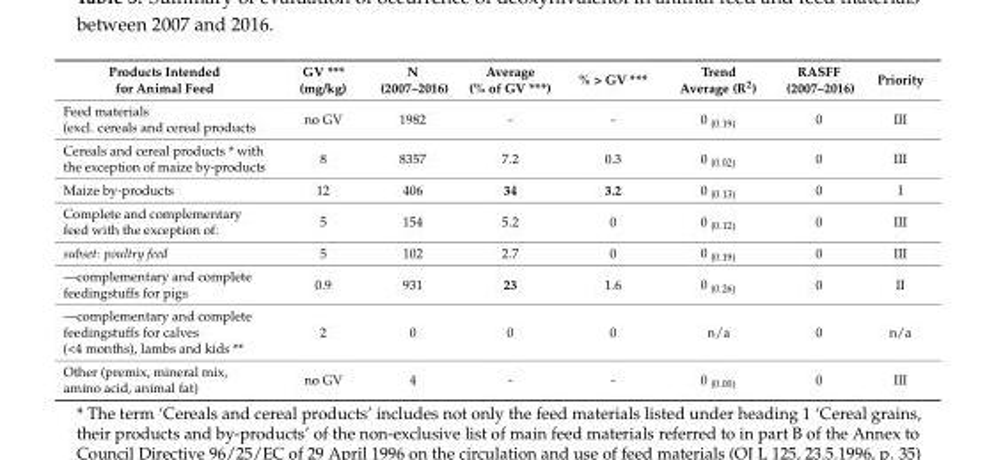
<table><thead><tr><td>Products Intended for Animal Feed</td><td>GV *** (mg/kg)</td><td>N (2007–2016)</td><td>Average (% of GV ***)</td><td>% &gt; GV ***</td><td>Trend Average (R<sup>2</sup>)</td><td>RASFF (2007–2016)</td><td>Priority</td></tr></thead><tbody><tr><td>Feed materials (excl. cereals and cereal products</td><td>no GV</td><td>1982</td><td>-</td><td>-</td><td>0 <sub>(0.19)</sub></td><td>0</td><td>III</td></tr><tr><td>Cereals and cereal products * with the exception of maize by-products</td><td>8</td><td>8357</td><td>7.2</td><td>0.3</td><td>0 <sub>(0.02)</sub></td><td>0</td><td>III</td></tr><tr><td>Maize by-products</td><td>12</td><td>406</td><td>34</td><td>3.2</td><td>0 <sub>(0.13)</sub></td><td>0</td><td>I</td></tr><tr><td>Complete and complementary feed with the exception of:</td><td>5</td><td>154</td><td>5.2</td><td>0</td><td>0 <sub>(0.12)</sub></td><td>0</td><td>III</td></tr><tr><td>subset: poultry feed</td><td>5</td><td>102</td><td>2.7</td><td>0</td><td>0 <sub>(0.19)</sub></td><td>0</td><td>III</td></tr><tr><td>—complementary and complete feedingstuffs for pigs</td><td>0.9</td><td>931</td><td>23</td><td>1.6</td><td>0 <sub>(0.26)</sub></td><td>0</td><td>II</td></tr><tr><td>—complementary and complete feedingstuffs for calves (&lt;4 months), lambs and kids **</td><td>2</td><td>0</td><td>0</td><td>0</td><td>n/a</td><td>0</td><td>n/a</td></tr><tr><td>Other (premix, mineral mix, amino acid, animal fat)</td><td>no GV</td><td>4</td><td>-</td><td>-</td><td>0 <sub>(0.00)</sub></td><td>0</td><td>III</td></tr></tbody></table>